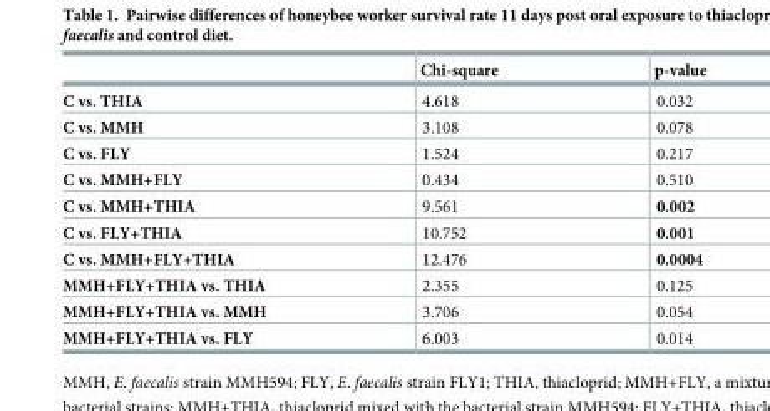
<table><thead><tr><td></td><td>Chi-square</td><td>p-value</td></tr></thead><tbody><tr><td>C vs. THIA</td><td>4.618</td><td>0.032</td></tr><tr><td>C vs. MMH</td><td>3.108</td><td>0.078</td></tr><tr><td>C vs. FLY</td><td>1.524</td><td>0.217</td></tr><tr><td>C vs. MMH+FLY</td><td>0.434</td><td>0.510</td></tr><tr><td>C vs. MMH+THIA</td><td>9.561</td><td>0.002</td></tr><tr><td>C vs. FLY+THIA</td><td>10.752</td><td>0.001</td></tr><tr><td>C vs. MMH+FLY+THIA</td><td>12.476</td><td>0.0004</td></tr><tr><td>MMH+FLY+THIA vs. THIA</td><td>2.355</td><td>0.125</td></tr><tr><td>MMH+FLY+THIA vs. MMH</td><td>3.706</td><td>0.054</td></tr><tr><td>MMH+FLY+THIA vs. FLY</td><td>6.003</td><td>0.014</td></tr></tbody></table>